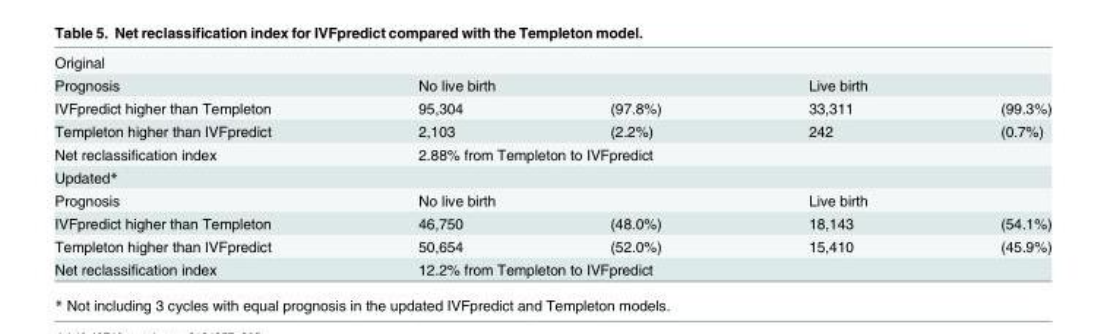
<table><tbody><tr><td colspan="5">Original</td></tr><tr><td>Prognosis</td><td colspan="2">No live birth</td><td colspan="2">Live birth</td></tr><tr><td>IVFpredict higher than Templeton</td><td>95,304</td><td>(97.8%)</td><td>33,311</td><td>(99.3%)</td></tr><tr><td>Templeton higher than IVFpredict</td><td>2,103</td><td>(2.2%)</td><td>242</td><td>(0.7%)</td></tr><tr><td>Net reclassification index</td><td colspan="4">2.88% from Templeton to IVFpredict</td></tr><tr><td colspan="5">Updated*</td></tr><tr><td>Prognosis</td><td colspan="2">No live birth</td><td colspan="2">Live birth</td></tr><tr><td>IVFpredict higher than Templeton</td><td>46,750</td><td>(48.0%)</td><td>18,143</td><td>(54.1%)</td></tr><tr><td>Templeton higher than IVFpredict</td><td>50,654</td><td>(52.0%)</td><td>15,410</td><td>(45.9%)</td></tr><tr><td>Net reclassification index</td><td colspan="4">12.2% from Templeton to IVFpredict</td></tr></tbody></table>